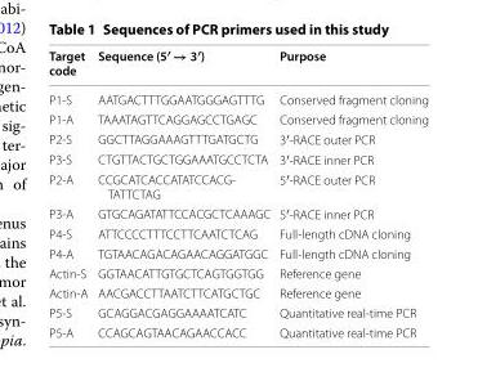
<table><thead><tr><td>Target code</td><td>Sequence (5′ → 3′)</td><td>Purpose</td></tr></thead><tbody><tr><td>P1-S</td><td>AATGACTTTGGAATGGGAGTTTG</td><td>Conserved fragment cloning</td></tr><tr><td>P1-A</td><td>TAAATAGTTCAGGAGCCTGAGC</td><td>Conserved fragment cloning</td></tr><tr><td>P2-S</td><td>GGCTTAGGAAAGTTTGATGCTG</td><td>3′-RACE outer PCR</td></tr><tr><td>P3-S</td><td>CTGTTACTGCTGGAAATGCCTCTA</td><td>3′-RACE inner PCR</td></tr><tr><td>P2-A</td><td>CCGCATCACCATATCCACG- TATTCTAG</td><td>5′-RACE outer PCR</td></tr><tr><td>P3-A</td><td>GTGCAGATATTCCACGCTCAAAGC</td><td>5′-RACE inner PCR</td></tr><tr><td>P4-S</td><td>ATTCCCCTTTCCTTCAATCTCAG</td><td>Full-length cDNA cloning</td></tr><tr><td>P4-A</td><td>TGTAACAGACAGAACAGGATGGC</td><td>Full-length cDNA cloning</td></tr><tr><td>Actin-S</td><td>GGTAACATTGTGCTCAGTGGTGG</td><td>Reference gene</td></tr><tr><td>Actin-A</td><td>AACGACCTTAATCTTCATGCTGC</td><td>Reference gene</td></tr><tr><td>P5-S</td><td>GCAGGACGAGGAAAATCATC</td><td>Quantitative real-time PCR</td></tr><tr><td>P5-A</td><td>CCAGCAGTAACAGAACCACC</td><td>Quantitative real-time PCR</td></tr></tbody></table>